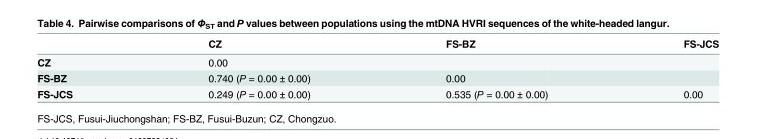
<table><thead><tr><td></td><td>CZ</td><td>FS-BZ</td><td>FS-JCS</td></tr></thead><tbody><tr><td>CZ</td><td>0.00</td><td></td><td></td></tr><tr><td>FS-BZ</td><td>0.740 (P = 0.00 ± 0.00)</td><td>0.00</td><td></td></tr><tr><td>FS-JCS</td><td>0.249 (P = 0.00 ± 0.00)</td><td>0.535 (P = 0.00 ± 0.00)</td><td>0.00</td></tr></tbody></table>